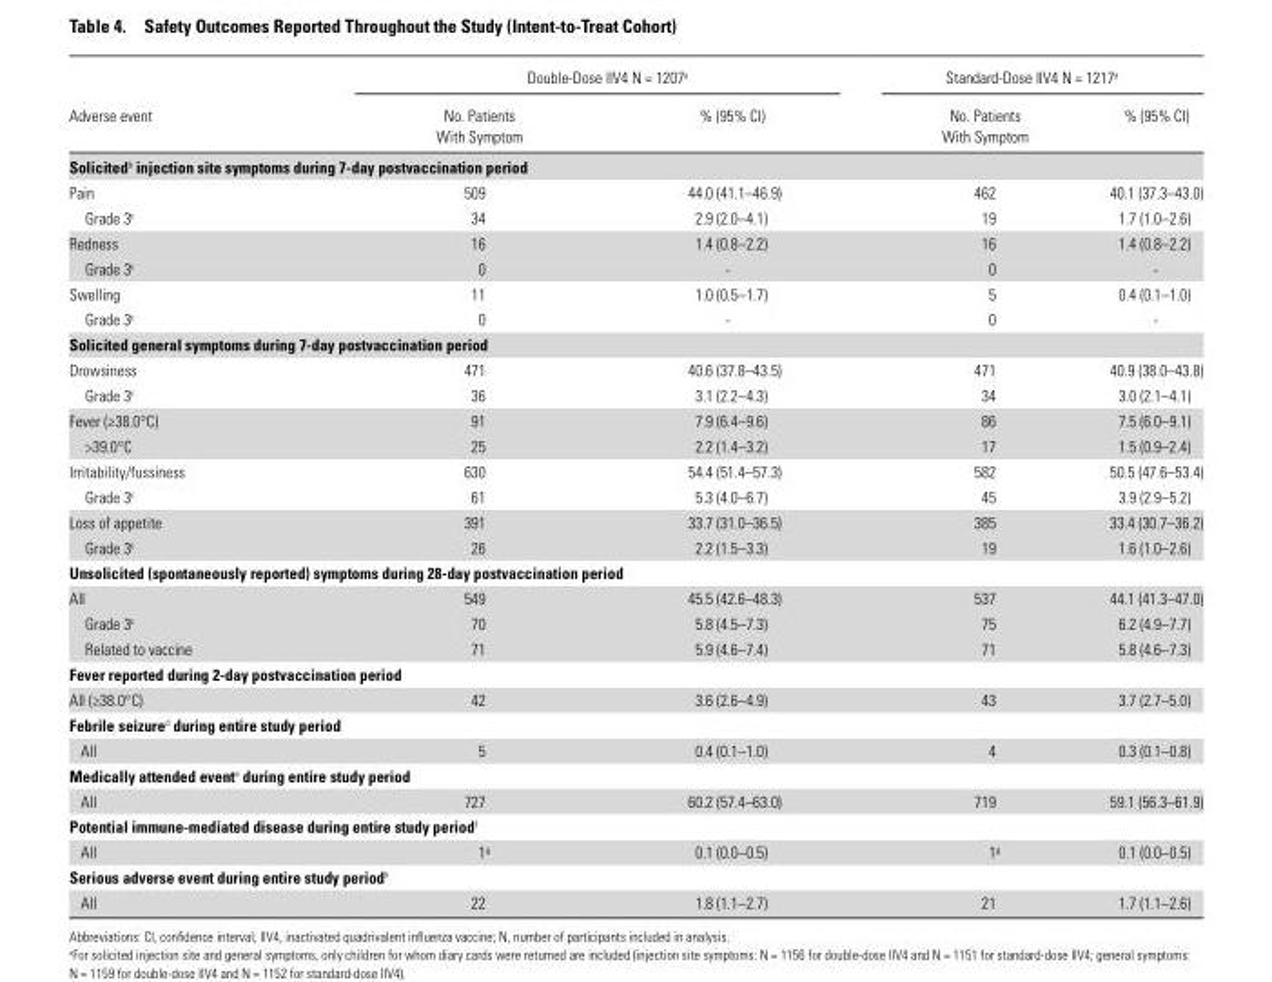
<table><thead><tr><td rowspan="2">Adverse event</td><td colspan="2">Double-Dose IIV4 N = 1207<sup>a</sup></td><td colspan="2">Standard-Dose IIV4 N = 1217<sup>a</sup></td></tr><tr><td>No. Patients With Symptom</td><td>% (95% CI)</td><td>No. Patients With Symptom</td><td>% (95% CI)</td></tr></thead><tbody><tr><td colspan="5">Solicited<sup>b</sup> injection site symptoms during 7-day postvaccination period</td></tr><tr><td>Pain</td><td>509</td><td>44.0 (41.1–46.9)</td><td>462</td><td>40.1 (37.3–43.0)</td></tr><tr><td>Grade 3<sup>c</sup></td><td>34</td><td>2.9 (2.0–4.1)</td><td>19</td><td>1.7 (1.0–2.6)</td></tr><tr><td>Redness</td><td>16</td><td>1.4 (0.8–2.2)</td><td>16</td><td>1.4 (0.8–2.2)</td></tr><tr><td>Grade 3<sup>c</sup></td><td>0</td><td>-</td><td>0</td><td>-</td></tr><tr><td>Swelling</td><td>11</td><td>1.0 (0.5–1.7)</td><td>5</td><td>0.4 (0.1–1.0)</td></tr><tr><td>Grade 3<sup>c</sup></td><td>0</td><td>-</td><td>0</td><td>-</td></tr><tr><td colspan="5">Solicited general symptoms during 7-day postvaccination period</td></tr><tr><td>Drowsiness</td><td>471</td><td>40.6 (37.8–43.5)</td><td>471</td><td>40.9 (38.0–43.8)</td></tr><tr><td>Grade 3<sup>c</sup></td><td>36</td><td>3.1 (2.2–4.3)</td><td>34</td><td>3.0 (2.1–4.1)</td></tr><tr><td>Fever (≥38.0°C)</td><td>91</td><td>7.9 (6.4–9.6)</td><td>86</td><td>7.5 (6.0–9.1)</td></tr><tr><td>&gt;39.0°C</td><td>25</td><td>2.2 (1.4–3.2)</td><td>17</td><td>1.5 (0.9–2.4)</td></tr><tr><td>Irritability/fussiness</td><td>630</td><td>54.4 (51.4–57.3)</td><td>582</td><td>50.5 (47.6–53.4)</td></tr><tr><td>Grade 3<sup>c</sup></td><td>61</td><td>5.3 (4.0–6.7)</td><td>45</td><td>3.9 (2.9–5.2)</td></tr><tr><td>Loss of appetite</td><td>391</td><td>33.7 (31.0–36.5)</td><td>385</td><td>33.4 (30.7–36.2)</td></tr><tr><td>Grade 3<sup>c</sup></td><td>26</td><td>2.2 (1.5–3.3)</td><td>19</td><td>1.6 (1.0–2.6)</td></tr><tr><td colspan="5">Unsolicited (spontaneously reported) symptoms during 28-day postvaccination period</td></tr><tr><td>All</td><td>549</td><td>45.5 (42.6–48.3)</td><td>537</td><td>44.1 (41.3–47.0)</td></tr><tr><td>Grade 3<sup>c</sup></td><td>70</td><td>5.8 (4.5–7.3)</td><td>75</td><td>6.2 (4.9–7.7)</td></tr><tr><td>Related to vaccine</td><td>71</td><td>5.9 (4.6–7.4)</td><td>71</td><td>5.8 (4.6–7.3)</td></tr><tr><td colspan="5">Fever reported during 2-day postvaccination period</td></tr><tr><td>All (≥38.0°C)</td><td>42</td><td>3.6 (2.6–4.9)</td><td>43</td><td>3.7 (2.7–5.0)</td></tr><tr><td colspan="5">Febrile seizure<sup>d</sup> during entire study period</td></tr><tr><td>All</td><td>5</td><td>0.4 (0.1–1.0)</td><td>4</td><td>0.3 (0.1–0.8)</td></tr><tr><td colspan="5">Medically attended event<sup>e</sup> during entire study period</td></tr><tr><td>All</td><td>727</td><td>60.2 (57.4–63.0)</td><td>719</td><td>59.1 (56.3–61.9)</td></tr><tr><td colspan="5">Potential immune-mediated disease during entire study period<sup>f</sup></td></tr><tr><td>All</td><td>1<sup>g</sup></td><td>0.1 (0.0–0.5)</td><td>1<sup>g</sup></td><td>0.1 (0.0–0.5)</td></tr><tr><td colspan="5">Serious adverse event during entire study period<sup>h</sup></td></tr><tr><td>All</td><td>22</td><td>1.8 (1.1–2.7)</td><td>21</td><td>1.7 (1.1–2.6)</td></tr></tbody></table>